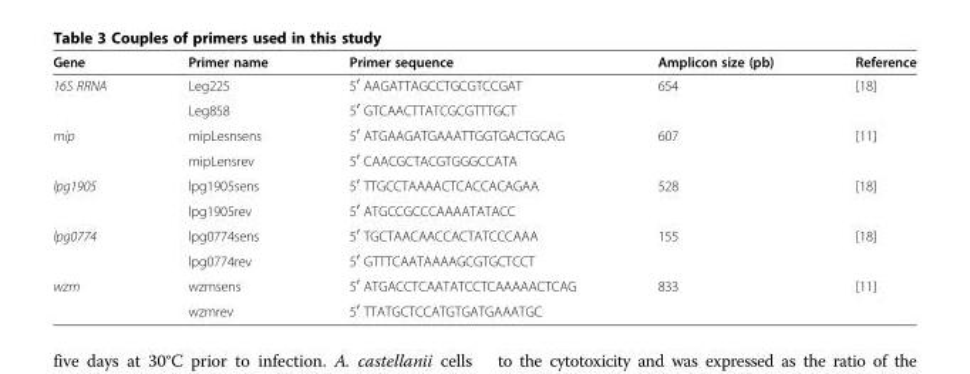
<table><thead><tr><td>Gene</td><td>Primer name</td><td>Primer sequence</td><td>Amplicon size (pb)</td><td>Reference</td></tr></thead><tbody><tr><td rowspan="2">16S RRNA</td><td>Leg225</td><td>5<sup>′</sup> AAGATTAGCCTGCGTCCGAT</td><td rowspan="2">654</td><td rowspan="2">[18]</td></tr><tr><td>Leg858</td><td>5<sup>′</sup> GTCAACTTATCGCGTTTGCT</td></tr><tr><td rowspan="2">mip</td><td>mipLesnsens</td><td>5<sup>′</sup> ATGAAGATGAAATTGGTGACTGCAG</td><td rowspan="2">607</td><td rowspan="2">[11]</td></tr><tr><td>mipLensrev</td><td>5<sup>′</sup> CAACGCTACGTGGGCCATA</td></tr><tr><td rowspan="2">lpg1905</td><td>lpg1905sens</td><td>5<sup>′</sup> TTGCCTAAAACTCACCACAGAA</td><td rowspan="2">528</td><td rowspan="2">[18]</td></tr><tr><td>lpg1905rev</td><td>5<sup>′</sup> ATGCCGCCCAAAATATACC</td></tr><tr><td rowspan="2">lpg0774</td><td>lpg0774sens</td><td>5<sup>′</sup> TGCTAACAACCACTATCCCAAA</td><td rowspan="2">155</td><td rowspan="2">[18]</td></tr><tr><td>lpg0774rev</td><td>5<sup>′</sup> GTTTCAATAAAAGCGTGCTCCT</td></tr><tr><td rowspan="2">wzm</td><td>wzmsens</td><td>5<sup>′</sup> ATGACCTCAATATCCTCAAAAACTCAG</td><td>833</td><td>[11]</td></tr><tr><td>wzmrev</td><td>5<sup>′</sup> TTATGCTCCATGTGATGAAATGC</td><td></td><td></td></tr></tbody></table>